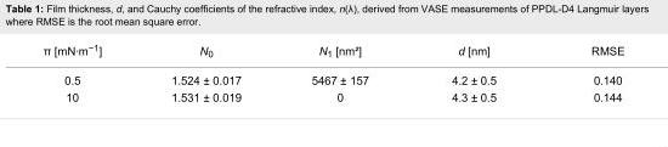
<table><tbody><tr><td>π [mN·m<sup>−1</sup>]</td><td>N<sub>0</sub></td><td>N<sub>1</sub> [nm²]</td><td>d [nm]</td><td>RMSE</td></tr><tr><td>0.5</td><td>1.524 ± 0.017</td><td>5467 ± 157</td><td>4.2 ± 0.5</td><td>0.140</td></tr><tr><td>10</td><td>1.531 ± 0.019</td><td>0</td><td>4.3 ± 0.5</td><td>0.144</td></tr></tbody></table>